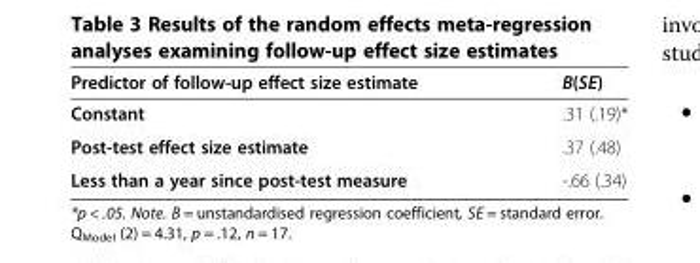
<table><thead><tr><td>Predictor of follow-up effect size estimate</td><td>B(SE)</td></tr></thead><tbody><tr><td>Constant</td><td>.31 (.19)*</td></tr><tr><td>Post-test effect size estimate</td><td>.37 (.48)</td></tr><tr><td>Less than a year since post-test measure</td><td>-.66 (.34)</td></tr></tbody></table>